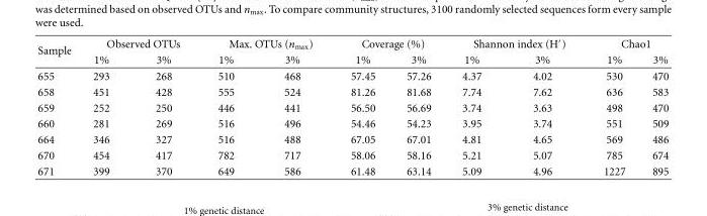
<table><thead><tr><td rowspan="2">Sample</td><td colspan="2">Observed OTUs</td><td colspan="2">Max. OTUs (n<sub>max</sub>)</td><td colspan="2">Coverage (%)</td><td colspan="2">Shannon index (H′)</td><td colspan="2">Chao1</td></tr><tr><td>1%</td><td>3%</td><td>1%</td><td>3%</td><td>1%</td><td>3%</td><td>1%</td><td>3%</td><td>1%</td><td>3%</td></tr></thead><tbody><tr><td>655</td><td>293</td><td>268</td><td>510</td><td>468</td><td>57.45</td><td>57.26</td><td>4.37</td><td>4.02</td><td>530</td><td>470</td></tr><tr><td>658</td><td>451</td><td>428</td><td>555</td><td>524</td><td>81.26</td><td>81.68</td><td>7.74</td><td>7.62</td><td>636</td><td>583</td></tr><tr><td>659</td><td>252</td><td>250</td><td>446</td><td>441</td><td>56.50</td><td>56.69</td><td>3.74</td><td>3.63</td><td>498</td><td>470</td></tr><tr><td>660</td><td>281</td><td>269</td><td>516</td><td>496</td><td>54.46</td><td>54.23</td><td>3.95</td><td>3.74</td><td>551</td><td>509</td></tr><tr><td>664</td><td>346</td><td>327</td><td>516</td><td>488</td><td>67.05</td><td>67.01</td><td>4.81</td><td>4.65</td><td>569</td><td>486</td></tr><tr><td>670</td><td>454</td><td>417</td><td>782</td><td>717</td><td>58.06</td><td>58.16</td><td>5.21</td><td>5.07</td><td>785</td><td>674</td></tr><tr><td>671</td><td>399</td><td>370</td><td>649</td><td>586</td><td>61.48</td><td>63.14</td><td>5.09</td><td>4.96</td><td>1227</td><td>895</td></tr></tbody></table>